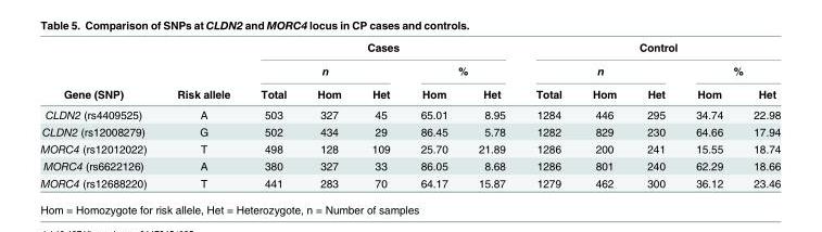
<table><thead><tr><td rowspan="3">Gene (SNP)</td><td rowspan="3">Risk allele</td><td colspan="5">Cases</td><td colspan="5">Control</td></tr><tr><td colspan="3">n</td><td colspan="2">%</td><td colspan="3">n</td><td colspan="2">%</td></tr><tr><td>Total</td><td>Hom</td><td>Het</td><td>Hom</td><td>Het</td><td>Total</td><td>Hom</td><td>Het</td><td>Hom</td><td>Het</td></tr></thead><tbody><tr><td>CLDN2 (rs4409525)</td><td>A</td><td>503</td><td>327</td><td>45</td><td>65.01</td><td>8.95</td><td>1284</td><td>446</td><td>295</td><td>34.74</td><td>22.98</td></tr><tr><td>CLDN2 (rs12008279)</td><td>G</td><td>502</td><td>434</td><td>29</td><td>86.45</td><td>5.78</td><td>1282</td><td>829</td><td>230</td><td>64.66</td><td>17.94</td></tr><tr><td>MORC4 (rs12012022)</td><td>T</td><td>498</td><td>128</td><td>109</td><td>25.70</td><td>21.89</td><td>1286</td><td>200</td><td>241</td><td>15.55</td><td>18.74</td></tr><tr><td>MORC4 (rs6622126)</td><td>A</td><td>380</td><td>327</td><td>33</td><td>86.05</td><td>8.68</td><td>1286</td><td>801</td><td>240</td><td>62.29</td><td>18.66</td></tr><tr><td>MORC4 (rs12688220)</td><td>T</td><td>441</td><td>283</td><td>70</td><td>64.17</td><td>15.87</td><td>1279</td><td>462</td><td>300</td><td>36.12</td><td>23.46</td></tr></tbody></table>